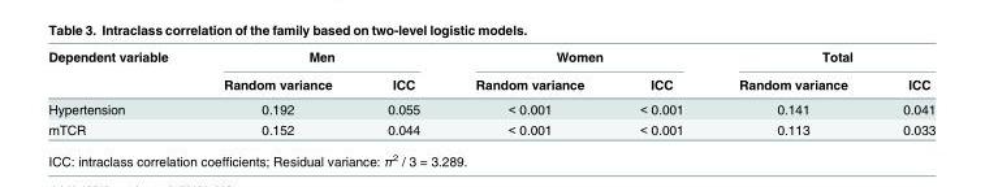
<table><thead><tr><td rowspan="2">Dependent variable</td><td colspan="2">Men</td><td colspan="2">Women</td><td colspan="2">Total</td></tr><tr><td>Random variance</td><td>ICC</td><td>Random variance</td><td>ICC</td><td>Random variance</td><td>ICC</td></tr></thead><tbody><tr><td>Hypertension</td><td>0.192</td><td>0.055</td><td>&lt; 0.001</td><td>&lt; 0.001</td><td>0.141</td><td>0.041</td></tr><tr><td>mTCR</td><td>0.152</td><td>0.044</td><td>&lt; 0.001</td><td>&lt; 0.001</td><td>0.113</td><td>0.033</td></tr></tbody></table>